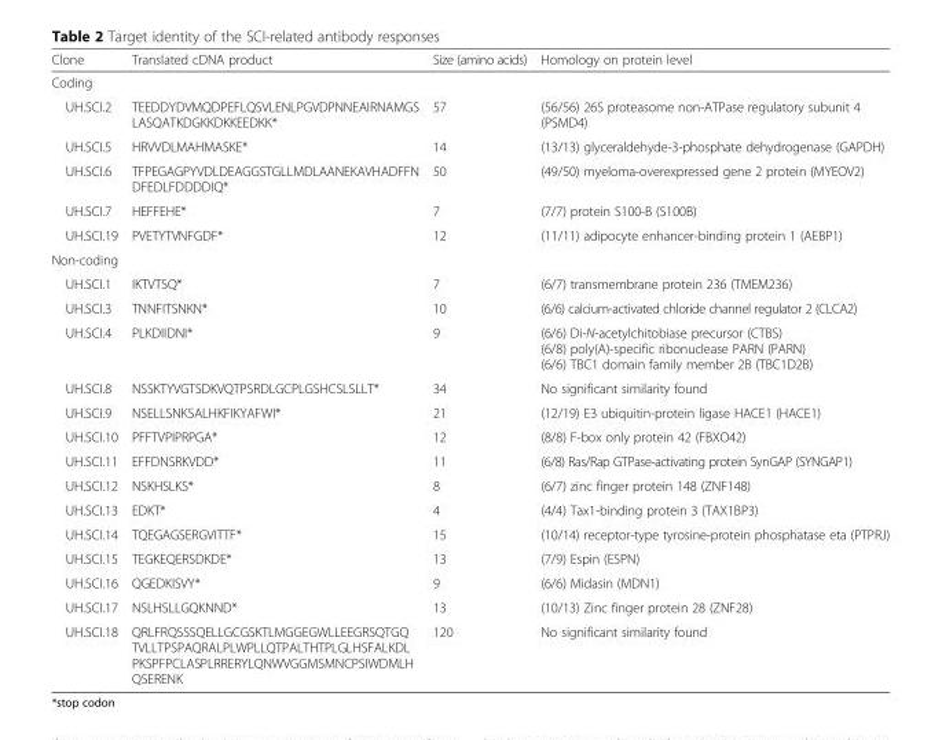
<table><thead><tr><td>Clone</td><td>Translated cDNA product</td><td>Size (amino acids)</td><td>Homology on protein level</td></tr></thead><tbody><tr><td colspan="4">Coding</td></tr><tr><td>UH.SCI.2</td><td>TEEDDYDVMQDPEFLQSVLENLPGVDPNNEAIRNAMGS LASQATKDGKKDKKEEDKK*</td><td>57</td><td>(56/56) 26S proteasome non-ATPase regulatory subunit 4 (PSMD4)</td></tr><tr><td>UH.SCI.5</td><td>HRVVDLMAHMASKE*</td><td>14</td><td>(13/13) glyceraldehyde-3-phosphate dehydrogenase (GAPDH)</td></tr><tr><td>UH.SCI.6</td><td>TFPEGAGPYVDLDEAGGSTGLLMDLAANEKAVHADFFN DFEDLFDDDDIQ*</td><td>50</td><td>(49/50) myeloma-overexpressed gene 2 protein (MYEOV2)</td></tr><tr><td>UH.SCI.7</td><td>HEFFEHE*</td><td>7</td><td>(7/7) protein S100-B (S100B)</td></tr><tr><td>UH.SCI.19</td><td>PVETYTVNFGDF*</td><td>12</td><td>(11/11) adipocyte enhancer-binding protein 1 (AEBP1)</td></tr><tr><td colspan="4">Non-coding</td></tr><tr><td>UH.SCI.1</td><td>IKTVTSQ*</td><td>7</td><td>(6/7) transmembrane protein 236 (TMEM236)</td></tr><tr><td>UH.SCI.3</td><td>TNNFITSNKN*</td><td>10</td><td>(6/6) calcium-activated chloride channel regulator 2 (CLCA2)</td></tr><tr><td>UH.SCI.4</td><td>PLKDIIDNI*</td><td>9</td><td>(6/6) Di-N-acetylchitobiase precursor (CTBS) (6/8) poly(A)-specific ribonuclease PARN (PARN) (6/6) TBC1 domain family member 2B (TBC1D2B)</td></tr><tr><td>UH.SCI.8</td><td>NSSKTYVGTSDKVQTPSRDLGCPLGSHCSLSLLT*</td><td>34</td><td>No significant similarity found</td></tr><tr><td>UH.SCI.9</td><td>NSELLSNKSALHKFIKYAFWI*</td><td>21</td><td>(12/19) E3 ubiquitin-protein ligase HACE1 (HACE1)</td></tr><tr><td>UH.SCI.10</td><td>PFFTVPIPRPGA*</td><td>12</td><td>(8/8) F-box only protein 42 (FBXO42)</td></tr><tr><td>UH.SCI.11</td><td>EFFDNSRKVDD*</td><td>11</td><td>(6/8) Ras/Rap GTPase-activating protein SynGAP (SYNGAP1)</td></tr><tr><td>UH.SCI.12</td><td>NSKHSLKS*</td><td>8</td><td>(6/7) zinc finger protein 148 (ZNF148)</td></tr><tr><td>UH.SCI.13</td><td>EDKT*</td><td>4</td><td>(4/4) Tax1-binding protein 3 (TAX1BP3)</td></tr><tr><td>UH.SCI.14</td><td>TQEGAGSERGVITTF*</td><td>15</td><td>(10/14) receptor-type tyrosine-protein phosphatase eta (PTPRJ)</td></tr><tr><td>UH.SCI.15</td><td>TEGKEQERSDKDE*</td><td>13</td><td>(7/9) Espin (ESPN)</td></tr><tr><td>UH.SCI.16</td><td>QGEDKISVY*</td><td>9</td><td>(6/6) Midasin (MDN1)</td></tr><tr><td>UH.SCI.17</td><td>NSLHSLLGQKNND*</td><td>13</td><td>(10/13) Zinc finger protein 28 (ZNF28)</td></tr><tr><td>UH.SCI.18</td><td>QRLFRQSSSQELLGCGSKTLMGGEGWLLEEGRSQTGQ TVLLTPSPAQRALPLWPLLQTPALTHTPLGLHSFALKDL PKSPFPCLASPLRRERYLQNWVGGMSMNCPSIWDMLH QSERENK</td><td>120</td><td>No significant similarity found</td></tr></tbody></table>